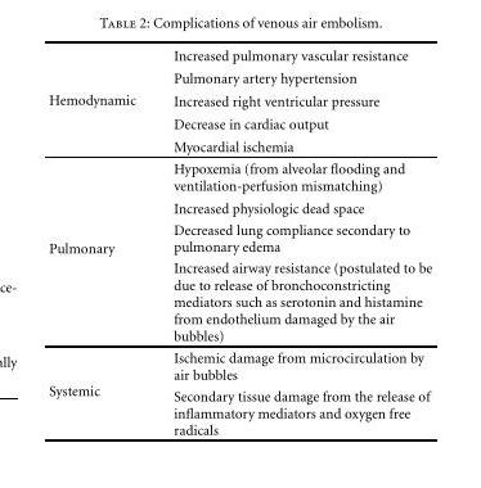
<table><tbody><tr><td rowspan="5">Hemodynamic</td><td>Increased pulmonary vascular resistance</td></tr><tr><td>Pulmonary artery hypertension</td></tr><tr><td>Increased right ventricular pressure</td></tr><tr><td>Decrease in cardiac output</td></tr><tr><td>Myocardial ischemia</td></tr><tr><td rowspan="4">Pulmonary</td><td>Hypoxemia (from alveolar flooding and ventilation-perfusion mismatching)</td></tr><tr><td>Increased physiologic dead space</td></tr><tr><td>Decreased lung compliance secondary to pulmonary edema</td></tr><tr><td>Increased airway resistance (postulated to be due to release of bronchoconstricting mediators such as serotonin and histamine from endothelium damaged by the air bubbles)</td></tr><tr><td rowspan="2">Systemic</td><td>Ischemic damage from microcirculation by air bubbles</td></tr><tr><td>Secondary tissue damage from the release of inflammatory mediators and oxygen free radicals</td></tr></tbody></table>